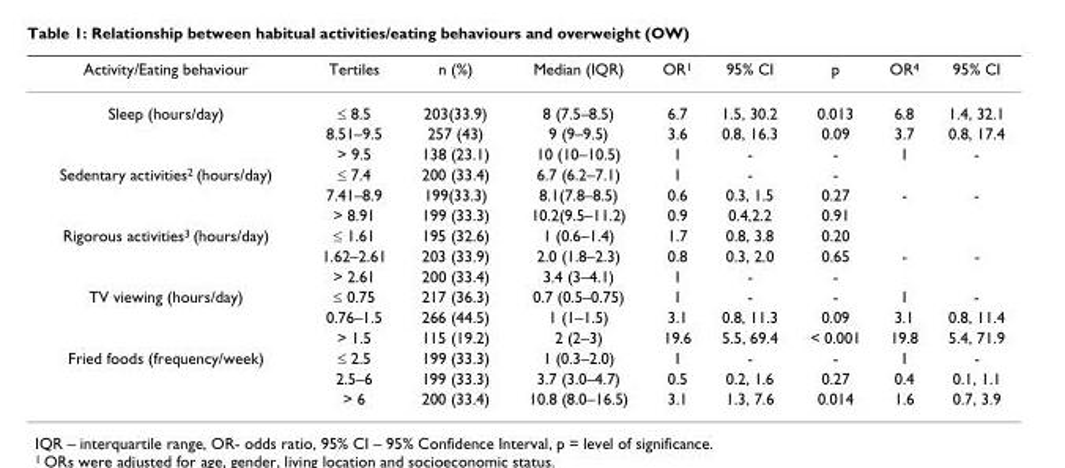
<table><thead><tr><td>Activity/Eating behaviour</td><td>Tertiles</td><td>n (%)</td><td>Median (IQR)</td><td>OR<sup>1</sup></td><td>95% CI</td><td>p</td><td>OR<sup>4</sup></td><td>95% CI</td></tr></thead><tbody><tr><td rowspan="3">Sleep (hours/day)</td><td>≤ 8.5</td><td>203(33.9)</td><td>8 (7.5–8.5)</td><td>6.7</td><td>1.5, 30.2</td><td>0.013</td><td>6.8</td><td>1.4, 32.1</td></tr><tr><td>8.51–9.5</td><td>257 (43)</td><td>9 (9–9.5)</td><td>3.6</td><td>0.8, 16.3</td><td>0.09</td><td>3.7</td><td>0.8, 17.4</td></tr><tr><td>&gt; 9.5</td><td>138 (23.1)</td><td>10 (10–10.5)</td><td>1</td><td>-</td><td>-</td><td>1</td><td>-</td></tr><tr><td rowspan="3">Sedentary activities<sup>2</sup> (hours/day)</td><td>≤ 7.4</td><td>200 (33.4)</td><td>6.7 (6.2–7.1)</td><td>1</td><td>-</td><td>-</td><td></td><td></td></tr><tr><td>7.41–8.9</td><td>199(33.3)</td><td>8.1(7.8–8.5)</td><td>0.6</td><td>0.3, 1.5</td><td>0.27</td><td>-</td><td>-</td></tr><tr><td>&gt; 8.91</td><td>199 (33.3)</td><td>10.2(9.5–11.2)</td><td>0.9</td><td>0.4,2.2</td><td>0.91</td><td></td><td></td></tr><tr><td rowspan="3">Rigorous activities<sup>3</sup> (hours/day)</td><td>≤ 1.61</td><td>195 (32.6)</td><td>1 (0.6–1.4)</td><td>1.7</td><td>0.8, 3.8</td><td>0.20</td><td></td><td></td></tr><tr><td>1.62–2.61</td><td>203 (33.9)</td><td>2.0 (1.8–2.3)</td><td>0.8</td><td>0.3, 2.0</td><td>0.65</td><td>-</td><td>-</td></tr><tr><td>&gt; 2.61</td><td>200 (33.4)</td><td>3.4 (3–4.1)</td><td>1</td><td>-</td><td>-</td><td></td><td></td></tr><tr><td rowspan="3">TV viewing (hours/day)</td><td>≤ 0.75</td><td>217 (36.3)</td><td>0.7 (0.5–0.75)</td><td>1</td><td>-</td><td>-</td><td>1</td><td>-</td></tr><tr><td>0.76–1.5</td><td>266 (44.5)</td><td>1 (1–1.5)</td><td>3.1</td><td>0.8, 11.3</td><td>0.09</td><td>3.1</td><td>0.8, 11.4</td></tr><tr><td>&gt; 1.5</td><td>115 (19.2)</td><td>2 (2–3)</td><td>19.6</td><td>5.5, 69.4</td><td>&lt; 0.001</td><td>19.8</td><td>5.4, 71.9</td></tr><tr><td rowspan="3">Fried foods (frequency/week)</td><td>≤ 2.5</td><td>199 (33.3)</td><td>1 (0.3–2.0)</td><td>1</td><td>-</td><td>-</td><td>1</td><td>-</td></tr><tr><td>2.5–6</td><td>199 (33.3)</td><td>3.7 (3.0–4.7)</td><td>0.5</td><td>0.2, 1.6</td><td>0.27</td><td>0.4</td><td>0.1, 1.1</td></tr><tr><td>&gt; 6</td><td>200 (33.4)</td><td>10.8 (8.0–16.5)</td><td>3.1</td><td>1.3, 7.6</td><td>0.014</td><td>1.6</td><td>0.7, 3.9</td></tr></tbody></table>